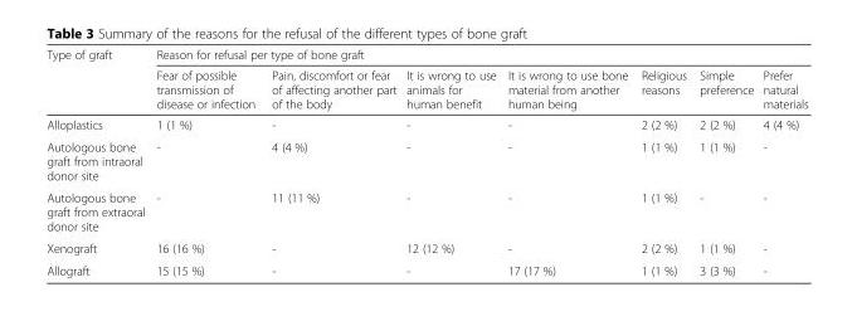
<table><thead><tr><td rowspan="2">Type of graft</td><td colspan="7">Reason for refusal per type of bone graft</td></tr><tr><td>Fear of possible transmission of disease or infection</td><td>Pain, discomfort or fear of affecting another part of the body</td><td>It is wrong to use animals for human benefit</td><td>It is wrong to use bone material from another human being</td><td>Religious reasons</td><td>Simple preference</td><td>Prefer natural materials</td></tr></thead><tbody><tr><td>Alloplastics</td><td>1 (1 %)</td><td>-</td><td>-</td><td>-</td><td>2 (2 %)</td><td>2 (2 %)</td><td>4 (4 %)</td></tr><tr><td>Autologous bone graft from intraoral donor site</td><td>-</td><td>4 (4 %)</td><td>-</td><td>-</td><td>1 (1 %)</td><td>1 (1 %)</td><td>-</td></tr><tr><td>Autologous bone graft from extraoral donor site</td><td>-</td><td>11 (11 %)</td><td>-</td><td>-</td><td>1 (1 %)</td><td>-</td><td>-</td></tr><tr><td>Xenograft</td><td>16 (16 %)</td><td>-</td><td>12 (12 %)</td><td>-</td><td>2 (2 %)</td><td>1 (1 %)</td><td>-</td></tr><tr><td>Allograft</td><td>15 (15 %)</td><td>-</td><td>-</td><td>17 (17 %)</td><td>1 (1 %)</td><td>3 (3 %)</td><td>-</td></tr></tbody></table>